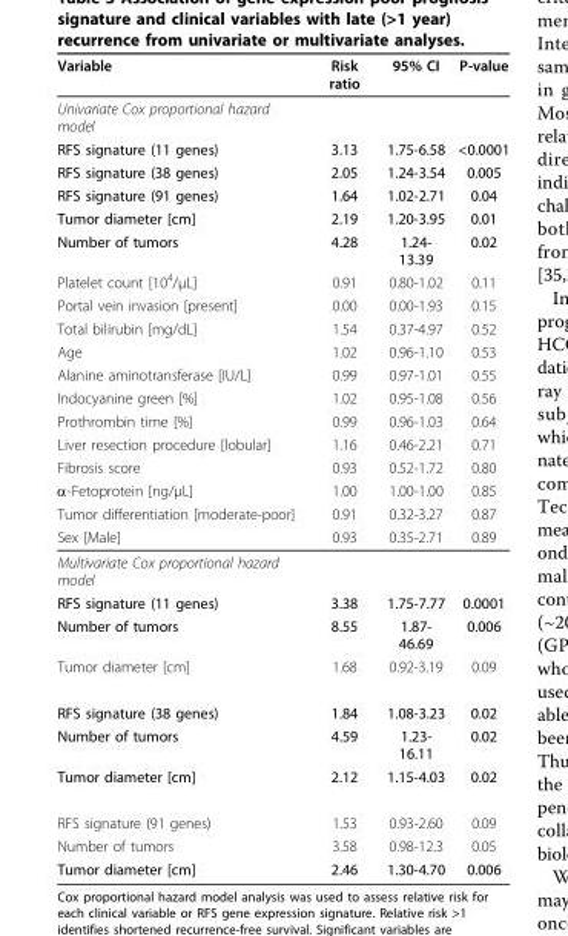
<table><thead><tr><td>Variable</td><td>Risk ratio</td><td>95% CI</td><td>P-value</td></tr></thead><tbody><tr><td colspan="4">Univariate Cox proportional hazard model</td></tr><tr><td>RFS signature (11 genes)</td><td>3.13</td><td>1.75-6.58</td><td>&lt;0.0001</td></tr><tr><td>RFS signature (38 genes)</td><td>2.05</td><td>1.24-3.54</td><td>0.005</td></tr><tr><td>RFS signature (91 genes)</td><td>1.64</td><td>1.02-2.71</td><td>0.04</td></tr><tr><td>Tumor diameter [cm]</td><td>2.19</td><td>1.20-3.95</td><td>0.01</td></tr><tr><td>Number of tumors</td><td>4.28</td><td>1.24- 13.39</td><td>0.02</td></tr><tr><td>Platelet count [10<sup>4</sup>/μL]</td><td>0.91</td><td>0.80-1.02</td><td>0.11</td></tr><tr><td>Portal vein invasion [present]</td><td>0.00</td><td>0.00-1.93</td><td>0.15</td></tr><tr><td>Total bilirubin [mg/dL]</td><td>1.54</td><td>0.37-4.97</td><td>0.52</td></tr><tr><td>Age</td><td>1.02</td><td>0.96-1.10</td><td>0.53</td></tr><tr><td>Alanine aminotransferase [IU/L]</td><td>0.99</td><td>0.97-1.01</td><td>0.55</td></tr><tr><td>Indocyanine green [%]</td><td>1.02</td><td>0.95-1.08</td><td>0.56</td></tr><tr><td>Prothrombin time [%]</td><td>0.99</td><td>0.96-1.03</td><td>0.64</td></tr><tr><td>Liver resection procedure [lobular]</td><td>1.16</td><td>0.46-2.21</td><td>0.71</td></tr><tr><td>Fibrosis score</td><td>0.93</td><td>0.52-1.72</td><td>0.80</td></tr><tr><td>α-Fetoprotein [ng/μL]</td><td>1.00</td><td>1.00-1.00</td><td>0.85</td></tr><tr><td>Tumor differentiation [moderate-poor]</td><td>0.91</td><td>0.32-3.27</td><td>0.87</td></tr><tr><td>Sex [Male]</td><td>0.93</td><td>0.35-2.71</td><td>0.89</td></tr><tr><td colspan="4">Multivariate Cox proportional hazard model</td></tr><tr><td>RFS signature (11 genes)</td><td>3.38</td><td>1.75-7.77</td><td>0.0001</td></tr><tr><td>Number of tumors</td><td>8.55</td><td>1.87- 46.69</td><td>0.006</td></tr><tr><td>Tumor diameter [cm]</td><td>1.68</td><td>0.92-3.19</td><td>0.09</td></tr><tr><td>RFS signature (38 genes)</td><td>1.84</td><td>1.08-3.23</td><td>0.02</td></tr><tr><td>Number of tumors</td><td>4.59</td><td>1.23- 16.11</td><td>0.02</td></tr><tr><td>Tumor diameter [cm]</td><td>2.12</td><td>1.15-4.03</td><td>0.02</td></tr><tr><td>RFS signature (91 genes)</td><td>1.53</td><td>0.93-2.60</td><td>0.09</td></tr><tr><td>Number of tumors</td><td>3.58</td><td>0.98-12.3</td><td>0.05</td></tr><tr><td>Tumor diameter [cm]</td><td>2.46</td><td>1.30-4.70</td><td>0.006</td></tr></tbody></table>